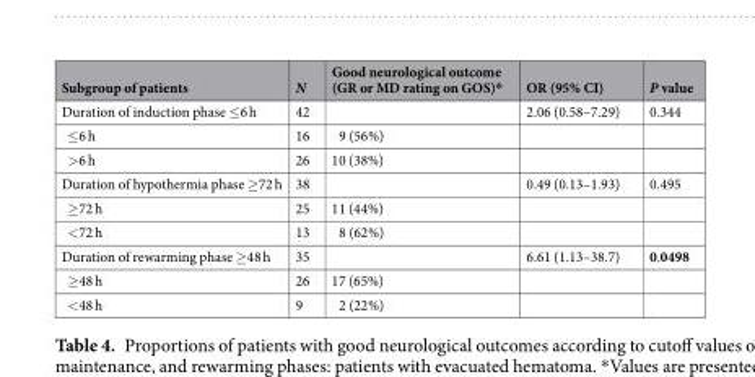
<table><thead><tr><td>Subgroup of patients</td><td>N</td><td>Good neurological outcome (GR or MD rating on GOS)*</td><td>OR (95% CI)</td><td>P value</td></tr></thead><tbody><tr><td>Duration of induction phase ≤6 h</td><td>42</td><td></td><td>2.06 (0.58–7.29)</td><td>0.344</td></tr><tr><td>≤6 h</td><td>16</td><td>9 (56%)</td><td></td><td></td></tr><tr><td>&gt;6 h</td><td>26</td><td>10 (38%)</td><td></td><td></td></tr><tr><td>Duration of hypothermia phase ≥72 h</td><td>38</td><td></td><td>0.49 (0.13–1.93)</td><td>0.495</td></tr><tr><td>≥72 h</td><td>25</td><td>11 (44%)</td><td></td><td></td></tr><tr><td>&lt;72 h</td><td>13</td><td>8 (62%)</td><td></td><td></td></tr><tr><td>Duration of rewarming phase ≥48 h</td><td>35</td><td></td><td>6.61 (1.13–38.7)</td><td>0.0498</td></tr><tr><td>≥48 h</td><td>26</td><td>17 (65%)</td><td></td><td></td></tr><tr><td>&lt;48 h</td><td>9</td><td>2 (22%)</td><td></td><td></td></tr></tbody></table>